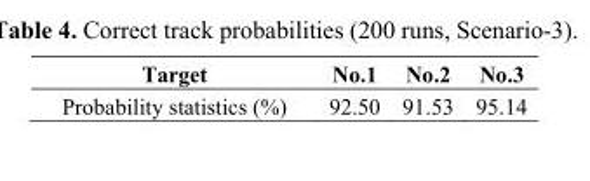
<table><thead><tr><td>Target</td><td>No.1</td><td>No.2</td><td>No.3</td></tr></thead><tbody><tr><td>Probability statistics (%)</td><td>92.50</td><td>91.53</td><td>95.14</td></tr></tbody></table>